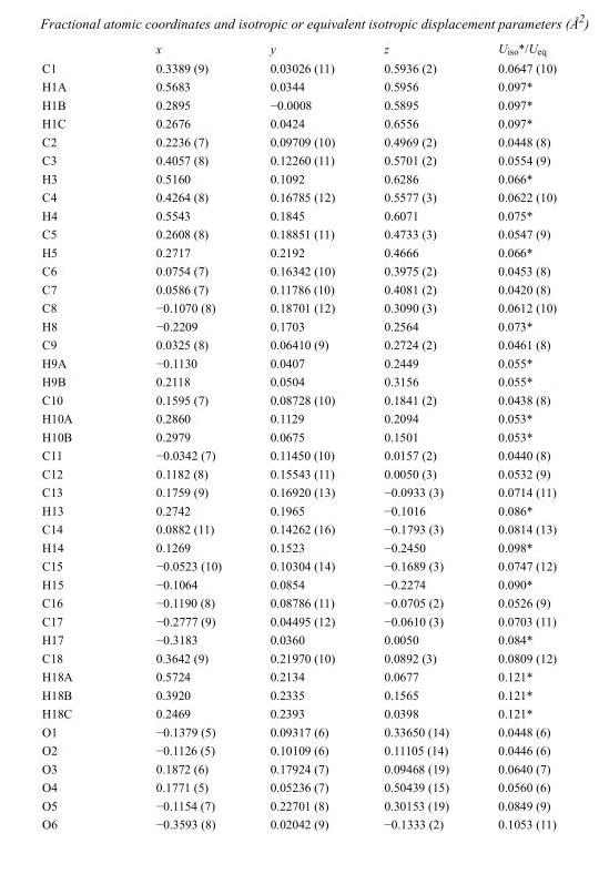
<table><thead><tr><td></td><td>x</td><td>y</td><td>z</td><td>U<sub>iso</sub>*/U<sub>eq</sub></td></tr></thead><tbody><tr><td>C1</td><td>0.3389 (9)</td><td>0.03026 (11)</td><td>0.5936 (2)</td><td>0.0647 (10)</td></tr><tr><td>H1A</td><td>0.5683</td><td>0.0344</td><td>0.5956</td><td>0.097*</td></tr><tr><td>H1B</td><td>0.2895</td><td>−0.0008</td><td>0.5895</td><td>0.097*</td></tr><tr><td>H1C</td><td>0.2676</td><td>0.0424</td><td>0.6556</td><td>0.097*</td></tr><tr><td>C2</td><td>0.2236 (7)</td><td>0.09709 (10)</td><td>0.4969 (2)</td><td>0.0448 (8)</td></tr><tr><td>C3</td><td>0.4057 (8)</td><td>0.12260 (11)</td><td>0.5701 (2)</td><td>0.0554 (9)</td></tr><tr><td>H3</td><td>0.5160</td><td>0.1092</td><td>0.6286</td><td>0.066*</td></tr><tr><td>C4</td><td>0.4264 (8)</td><td>0.16785 (12)</td><td>0.5577 (3)</td><td>0.0622 (10)</td></tr><tr><td>H4</td><td>0.5543</td><td>0.1845</td><td>0.6071</td><td>0.075*</td></tr><tr><td>C5</td><td>0.2608 (8)</td><td>0.18851 (11)</td><td>0.4733 (3)</td><td>0.0547 (9)</td></tr><tr><td>H5</td><td>0.2717</td><td>0.2192</td><td>0.4666</td><td>0.066*</td></tr><tr><td>C6</td><td>0.0754 (7)</td><td>0.16342 (10)</td><td>0.3975 (2)</td><td>0.0453 (8)</td></tr><tr><td>C7</td><td>0.0586 (7)</td><td>0.11786 (10)</td><td>0.4081 (2)</td><td>0.0420 (8)</td></tr><tr><td>C8</td><td>−0.1070 (8)</td><td>0.18701 (12)</td><td>0.3090 (3)</td><td>0.0612 (10)</td></tr><tr><td>H8</td><td>−0.2209</td><td>0.1703</td><td>0.2564</td><td>0.073*</td></tr><tr><td>C9</td><td>0.0325 (8)</td><td>0.06410 (9)</td><td>0.2724 (2)</td><td>0.0461 (8)</td></tr><tr><td>H9A</td><td>−0.1130</td><td>0.0407</td><td>0.2449</td><td>0.055*</td></tr><tr><td>H9B</td><td>0.2118</td><td>0.0504</td><td>0.3156</td><td>0.055*</td></tr><tr><td>C10</td><td>0.1595 (7)</td><td>0.08728 (10)</td><td>0.1841 (2)</td><td>0.0438 (8)</td></tr><tr><td>H10A</td><td>0.2860</td><td>0.1129</td><td>0.2094</td><td>0.053*</td></tr><tr><td>H10B</td><td>0.2979</td><td>0.0675</td><td>0.1501</td><td>0.053*</td></tr><tr><td>C11</td><td>−0.0342 (7)</td><td>0.11450 (10)</td><td>0.0157 (2)</td><td>0.0440 (8)</td></tr><tr><td>C12</td><td>0.1182 (8)</td><td>0.15543 (11)</td><td>0.0050 (3)</td><td>0.0532 (9)</td></tr><tr><td>C13</td><td>0.1759 (9)</td><td>0.16920 (13)</td><td>−0.0933 (3)</td><td>0.0714 (11)</td></tr><tr><td>H13</td><td>0.2742</td><td>0.1965</td><td>−0.1016</td><td>0.086*</td></tr><tr><td>C14</td><td>0.0882 (11)</td><td>0.14262 (16)</td><td>−0.1793 (3)</td><td>0.0814 (13)</td></tr><tr><td>H14</td><td>0.1269</td><td>0.1523</td><td>−0.2450</td><td>0.098*</td></tr><tr><td>C15</td><td>−0.0523 (10)</td><td>0.10304 (14)</td><td>−0.1689 (3)</td><td>0.0747 (12)</td></tr><tr><td>H15</td><td>−0.1064</td><td>0.0854</td><td>−0.2274</td><td>0.090*</td></tr><tr><td>C16</td><td>−0.1190 (8)</td><td>0.08786 (11)</td><td>−0.0705 (2)</td><td>0.0526 (9)</td></tr><tr><td>C17</td><td>−0.2777 (9)</td><td>0.04495 (12)</td><td>−0.0610 (3)</td><td>0.0703 (11)</td></tr><tr><td>H17</td><td>−0.3183</td><td>0.0360</td><td>0.0050</td><td>0.084*</td></tr><tr><td>C18</td><td>0.3642 (9)</td><td>0.21970 (10)</td><td>0.0892 (3)</td><td>0.0809 (12)</td></tr><tr><td>H18A</td><td>0.5724</td><td>0.2134</td><td>0.0677</td><td>0.121*</td></tr><tr><td>H18B</td><td>0.3920</td><td>0.2335</td><td>0.1565</td><td>0.121*</td></tr><tr><td>H18C</td><td>0.2469</td><td>0.2393</td><td>0.0398</td><td>0.121*</td></tr><tr><td>O1</td><td>−0.1379 (5)</td><td>0.09317 (6)</td><td>0.33650 (14)</td><td>0.0448 (6)</td></tr><tr><td>O2</td><td>−0.1126 (5)</td><td>0.10109 (6)</td><td>0.11105 (14)</td><td>0.0446 (6)</td></tr><tr><td>O3</td><td>0.1872 (6)</td><td>0.17924 (7)</td><td>0.09468 (19)</td><td>0.0640 (7)</td></tr><tr><td>O4</td><td>0.1771 (5)</td><td>0.05236 (7)</td><td>0.50439 (15)</td><td>0.0560 (6)</td></tr><tr><td>O5</td><td>−0.1154 (7)</td><td>0.22701 (8)</td><td>0.30153 (19)</td><td>0.0849 (9)</td></tr><tr><td>O6</td><td>−0.3593 (8)</td><td>0.02042 (9)</td><td>−0.1333 (2)</td><td>0.1053 (11)</td></tr></tbody></table>